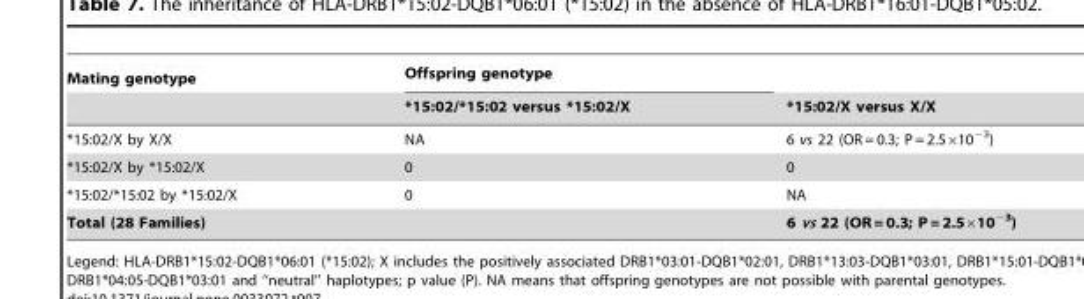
<table><thead><tr><td rowspan="2">Mating genotype</td><td rowspan="2">Offspring genotype *15:02/*15:02 versus *15:02/X</td><td rowspan="2">*15:02/X versus X/X</td></tr><tr></tr></thead><tbody><tr><td>*15:02/X by X/X</td><td>NA</td><td>6 vs 22 (OR = 0.3; P = 2.5×10<sup>−3</sup>)</td></tr><tr><td>*15:02/X by *15:02/X</td><td>0</td><td>0</td></tr><tr><td>*15:02/*15:02 by *15:02/X</td><td>0</td><td>NA</td></tr><tr><td>Total (28 Families)</td><td></td><td>6 vs 22 (OR = 0.3; P = 2.5×10<sup>−3</sup>)</td></tr></tbody></table>